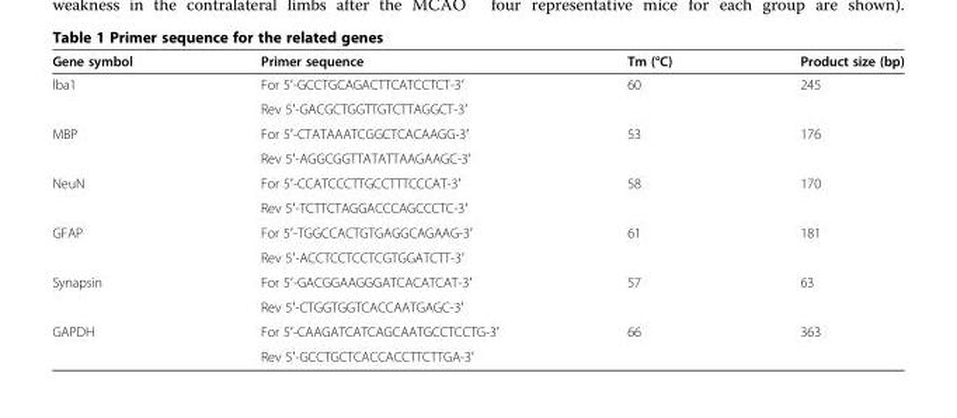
<table><thead><tr><td>Gene symbol</td><td>Primer sequence</td><td>Tm (°C)</td><td>Product size (bp)</td></tr></thead><tbody><tr><td rowspan="2">lba1</td><td>For 5′-GCCTGCAGACTTCATCCTCT-3′</td><td rowspan="2">60</td><td rowspan="2">245</td></tr><tr><td>Rev 5′-GACGCTGGTTGTCTTAGGCT-3′</td></tr><tr><td rowspan="2">MBP</td><td>For 5′-CTATAAATCGGCTCACAAGG-3′</td><td rowspan="2">53</td><td rowspan="2">176</td></tr><tr><td>Rev 5′-AGGCGGTTATATTAAGAAGC-3′</td></tr><tr><td rowspan="2">NeuN</td><td>For 5′-CCATCCCTTGCCTTTCCCAT-3′</td><td rowspan="2">58</td><td rowspan="2">170</td></tr><tr><td>Rev 5′-TCTTCTAGGACCCAGCCCTC-3′</td></tr><tr><td rowspan="2">GFAP</td><td>For 5′-TGGCCACTGTGAGGCAGAAG-3′</td><td rowspan="2">61</td><td rowspan="2">181</td></tr><tr><td>Rev 5′-ACCTCCTCCTCGTGGATCTT-3′</td></tr><tr><td rowspan="2">Synapsin</td><td>For 5′-GACGGAAGGGATCACATCAT-3′</td><td rowspan="2">57</td><td rowspan="2">63</td></tr><tr><td>Rev 5′-CTGGTGGTCACCAATGAGC-3′</td></tr><tr><td rowspan="2">GAPDH</td><td>For 5′-CAAGATCATCAGCAATGCCTCCTG-3′</td><td rowspan="2">66</td><td rowspan="2">363</td></tr><tr><td>Rev 5′-GCCTGCTCACCACCTTCTTGA-3′</td></tr></tbody></table>